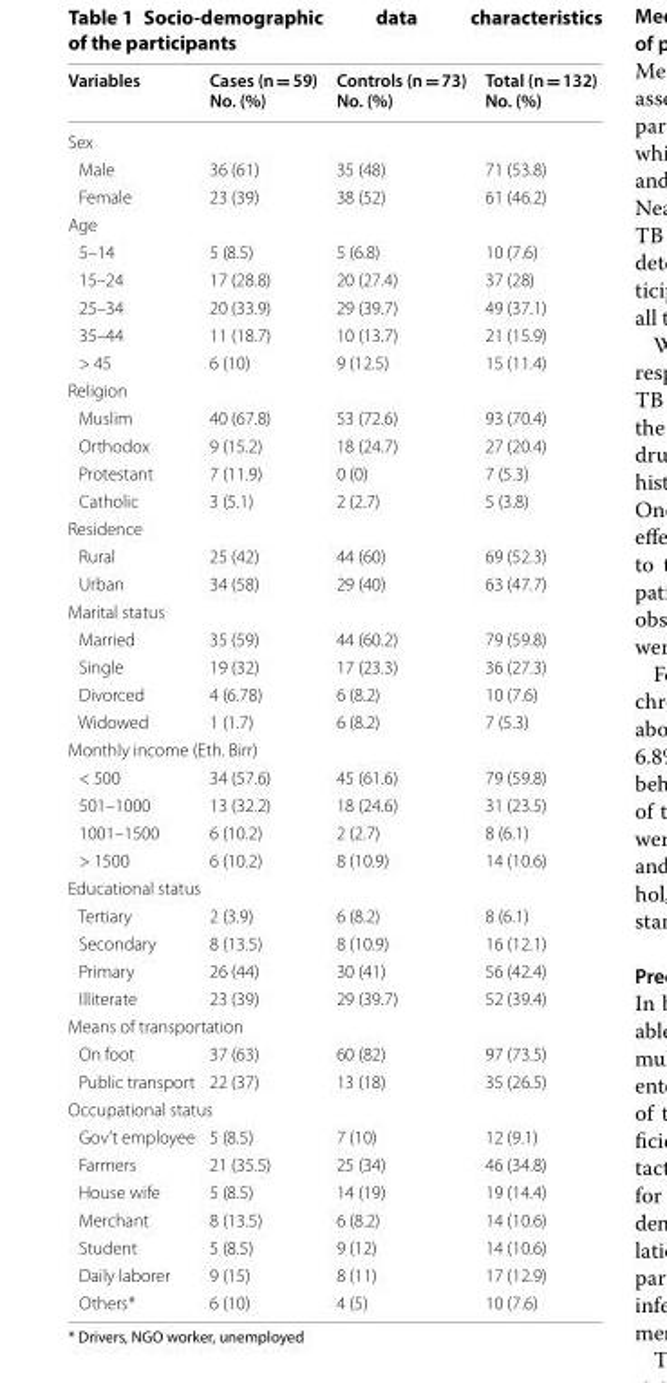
<table><thead><tr><td>Variables</td><td>Cases (n = 59) No. (%)</td><td>Controls (n = 73) No. (%)</td><td>Total (n = 132) No. (%)</td></tr></thead><tbody><tr><td colspan="4">Sex</td></tr><tr><td>Male</td><td>36 (61)</td><td>35 (48)</td><td>71 (53.8)</td></tr><tr><td>Female</td><td>23 (39)</td><td>38 (52)</td><td>61 (46.2)</td></tr><tr><td colspan="4">Age</td></tr><tr><td>5–14</td><td>5 (8.5)</td><td>5 (6.8)</td><td>10 (7.6)</td></tr><tr><td>15–24</td><td>17 (28.8)</td><td>20 (27.4)</td><td>37 (28)</td></tr><tr><td>25–34</td><td>20 (33.9)</td><td>29 (39.7)</td><td>49 (37.1)</td></tr><tr><td>35–44</td><td>11 (18.7)</td><td>10 (13.7)</td><td>21 (15.9)</td></tr><tr><td>&gt; 45</td><td>6 (10)</td><td>9 (12.5)</td><td>15 (11.4)</td></tr><tr><td colspan="4">Religion</td></tr><tr><td>Muslim</td><td>40 (67.8)</td><td>53 (72.6)</td><td>93 (70.4)</td></tr><tr><td>Orthodox</td><td>9 (15.2)</td><td>18 (24.7)</td><td>27 (20.4)</td></tr><tr><td>Protestant</td><td>7 (11.9)</td><td>0 (0)</td><td>7 (5.3)</td></tr><tr><td>Catholic</td><td>3 (5.1)</td><td>2 (2.7)</td><td>5 (3.8)</td></tr><tr><td colspan="4">Residence</td></tr><tr><td>Rural</td><td>25 (42)</td><td>44 (60)</td><td>69 (52.3)</td></tr><tr><td>Urban</td><td>34 (58)</td><td>29 (40)</td><td>63 (47.7)</td></tr><tr><td colspan="4">Marital status</td></tr><tr><td>Married</td><td>35 (59)</td><td>44 (60.2)</td><td>79 (59.8)</td></tr><tr><td>Single</td><td>19 (32)</td><td>17 (23.3)</td><td>36 (27.3)</td></tr><tr><td>Divorced</td><td>4 (6.78)</td><td>6 (8.2)</td><td>10 (7.6)</td></tr><tr><td>Widowed</td><td>1 (1.7)</td><td>6 (8.2)</td><td>7 (5.3)</td></tr><tr><td colspan="4">Monthly income (Eth. Birr)</td></tr><tr><td>&lt; 500</td><td>34 (57.6)</td><td>45 (61.6)</td><td>79 (59.8)</td></tr><tr><td>501–1000</td><td>13 (32.2)</td><td>18 (24.6)</td><td>31 (23.5)</td></tr><tr><td>1001–1500</td><td>6 (10.2)</td><td>2 (2.7)</td><td>8 (6.1)</td></tr><tr><td>&gt; 1500</td><td>6 (10.2)</td><td>8 (10.9)</td><td>14 (10.6)</td></tr><tr><td colspan="4">Educational status</td></tr><tr><td>Tertiary</td><td>2 (3.9)</td><td>6 (8.2)</td><td>8 (6.1)</td></tr><tr><td>Secondary</td><td>8 (13.5)</td><td>8 (10.9)</td><td>16 (12.1)</td></tr><tr><td>Primary</td><td>26 (44)</td><td>30 (41)</td><td>56 (42.4)</td></tr><tr><td>Illiterate</td><td>23 (39)</td><td>29 (39.7)</td><td>52 (39.4)</td></tr><tr><td colspan="4">Means of transportation</td></tr><tr><td>On foot</td><td>37 (63)</td><td>60 (82)</td><td>97 (73.5)</td></tr><tr><td>Public transport</td><td>22 (37)</td><td>13 (18)</td><td>35 (26.5)</td></tr><tr><td colspan="4">Occupational status</td></tr><tr><td>Gov’t employee</td><td>5 (8.5)</td><td>7 (10)</td><td>12 (9.1)</td></tr><tr><td>Farmers</td><td>21 (35.5)</td><td>25 (34)</td><td>46 (34.8)</td></tr><tr><td>House wife</td><td>5 (8.5)</td><td>14 (19)</td><td>19 (14.4)</td></tr><tr><td>Merchant</td><td>8 (13.5)</td><td>6 (8.2)</td><td>14 (10.6)</td></tr><tr><td>Student</td><td>5 (8.5)</td><td>9 (12)</td><td>14 (10.6)</td></tr><tr><td>Daily laborer</td><td>9 (15)</td><td>8 (11)</td><td>17 (12.9)</td></tr><tr><td>Others*</td><td>6 (10)</td><td>4 (5)</td><td>10 (7.6)</td></tr></tbody></table>